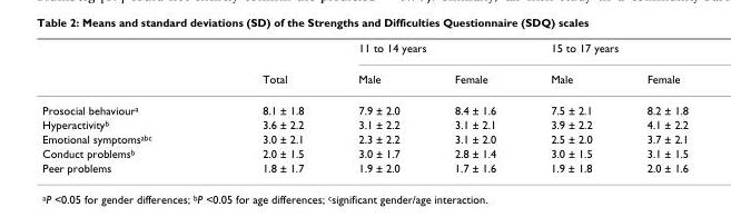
<table><thead><tr><td rowspan="2"></td><td rowspan="2">Total</td><td colspan="2">11 to 14 years</td><td colspan="2">15 to 17 years</td></tr><tr><td>Male</td><td>Female</td><td>Male</td><td>Female</td></tr></thead><tbody><tr><td>Prosocial behaviour<sup>a</sup></td><td>8.1 ± 1.8</td><td>7.9 ± 2.0</td><td>8.4 ± 1.6</td><td>7.5 ± 2.1</td><td>8.2 ± 1.8</td></tr><tr><td>Hyperactivity<sup>b</sup></td><td>3.6 ± 2.2</td><td>3.1 ± 2.2</td><td>3.1 ± 2.1</td><td>3.9 ± 2.2</td><td>4.1 ± 2.2</td></tr><tr><td>Emotional symptoms<sup>abc</sup></td><td>3.0 ± 2.1</td><td>2.3 ± 2.2</td><td>3.1 ± 2.0</td><td>2.5 ± 2.0</td><td>3.7 ± 2.1</td></tr><tr><td>Conduct problems<sup>b</sup></td><td>2.0 ± 1.5</td><td>3.0 ± 1.7</td><td>2.8 ± 1.4</td><td>3.0 ± 1.5</td><td>3.1 ± 1.5</td></tr><tr><td>Peer problems</td><td>1.8 ± 1.7</td><td>1.9 ± 2.0</td><td>1.7 ± 1.6</td><td>1.9 ± 1.8</td><td>2.0 ± 1.6</td></tr></tbody></table>